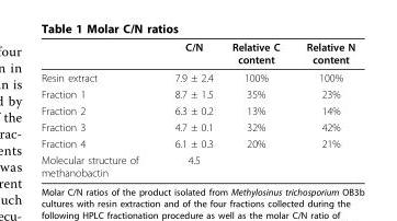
<table><thead><tr><td></td><td>C/N</td><td>Relative C content</td><td>Relative N content</td></tr></thead><tbody><tr><td>Resin extract</td><td>7.9 ± 2.4</td><td>100%</td><td>100%</td></tr><tr><td>Fraction 1</td><td>8.7 ± 1.5</td><td>35%</td><td>23%</td></tr><tr><td>Fraction 2</td><td>6.3 ± 0.2</td><td>13%</td><td>14%</td></tr><tr><td>Fraction 3</td><td>4.7 ± 0.1</td><td>32%</td><td>42%</td></tr><tr><td>Fraction 4</td><td>6.1 ± 0.3</td><td>20%</td><td>21%</td></tr><tr><td>Molecular structure of methanobactin</td><td>4.5</td><td></td><td></td></tr></tbody></table>